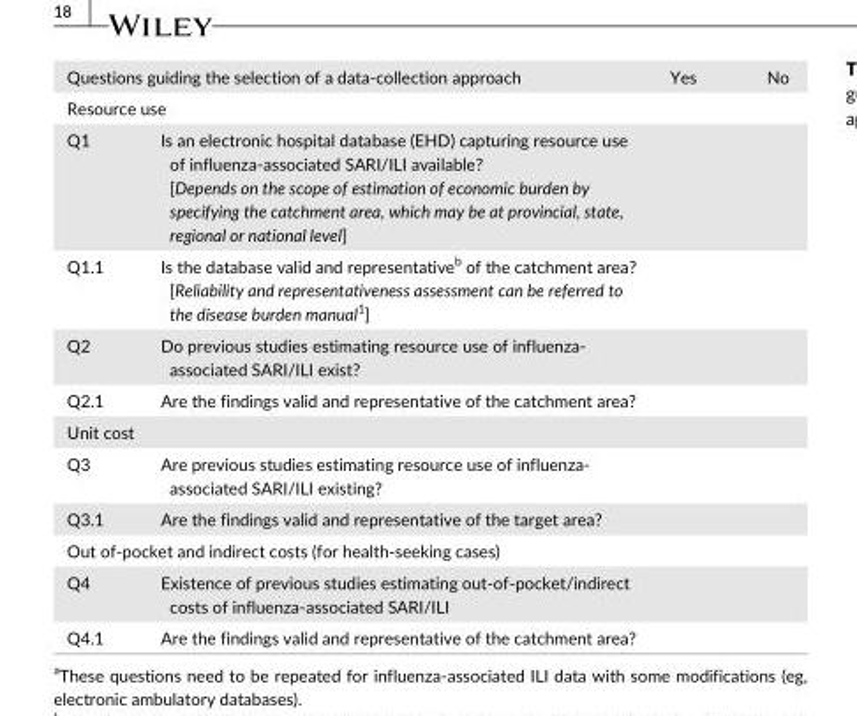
<table><tbody><tr><td colspan="2">Questions guiding the selection of a data- collection approach</td><td>Yes</td><td>No</td></tr><tr><td colspan="4">Resource use</td></tr><tr><td>Q1</td><td>Is an electronic hospital database (EHD) capturing resource use of influenza- associated SARI/ILI available? [Depends on the scope of estimation of economic burden by specifying the catchment area, which may be at provincial, state, regional or national level]</td><td></td><td></td></tr><tr><td>Q1.1</td><td>Is the database valid and representative<sup>b</sup> of the catchment area? [Reliability and representativeness assessment can be referred to the disease burden manual1]</td><td></td><td></td></tr><tr><td>Q2</td><td>Do previous studies estimating resource use of influenza- associated SARI/ILI exist?</td><td></td><td></td></tr><tr><td>Q2.1</td><td>Are the findings valid and representative of the catchment area?</td><td></td><td></td></tr><tr><td colspan="4">Unit cost</td></tr><tr><td>Q3</td><td>Are previous studies estimating resource use of influenza- associated SARI/ILI existing?</td><td></td><td></td></tr><tr><td>Q3.1</td><td>Are the findings valid and representative of the target area?</td><td></td><td></td></tr><tr><td colspan="4">Out of- pocket and indirect costs (for health- seeking cases)</td></tr><tr><td>Q4</td><td>Existence of previous studies estimating out- of- pocket/indirect costs of influenza- associated SARI/ILI</td><td></td><td></td></tr><tr><td>Q4.1</td><td>Are the findings valid and representative of the catchment area?</td><td></td><td></td></tr></tbody></table>